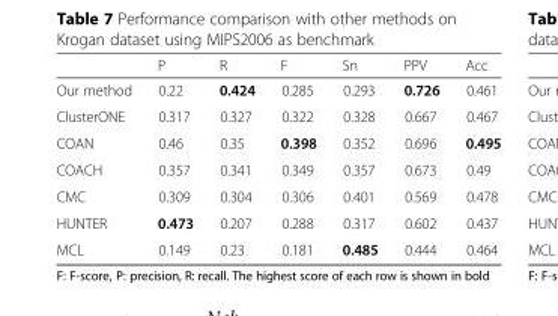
<table><thead><tr><td></td><td>P</td><td>R</td><td>F</td><td>Sn</td><td>PPV</td><td>Acc</td></tr></thead><tbody><tr><td>Our method</td><td>0.22</td><td>0.424</td><td>0.285</td><td>0.293</td><td>0.726</td><td>0.461</td></tr><tr><td>ClusterONE</td><td>0.317</td><td>0.327</td><td>0.322</td><td>0.328</td><td>0.667</td><td>0.467</td></tr><tr><td>COAN</td><td>0.46</td><td>0.35</td><td>0.398</td><td>0.352</td><td>0.696</td><td>0.495</td></tr><tr><td>COACH</td><td>0.357</td><td>0.341</td><td>0.349</td><td>0.357</td><td>0.673</td><td>0.49</td></tr><tr><td>CMC</td><td>0.309</td><td>0.304</td><td>0.306</td><td>0.401</td><td>0.569</td><td>0.478</td></tr><tr><td>HUNTER</td><td>0.473</td><td>0.207</td><td>0.288</td><td>0.317</td><td>0.602</td><td>0.437</td></tr><tr><td>MCL</td><td>0.149</td><td>0.23</td><td>0.181</td><td>0.485</td><td>0.444</td><td>0.464</td></tr></tbody></table>